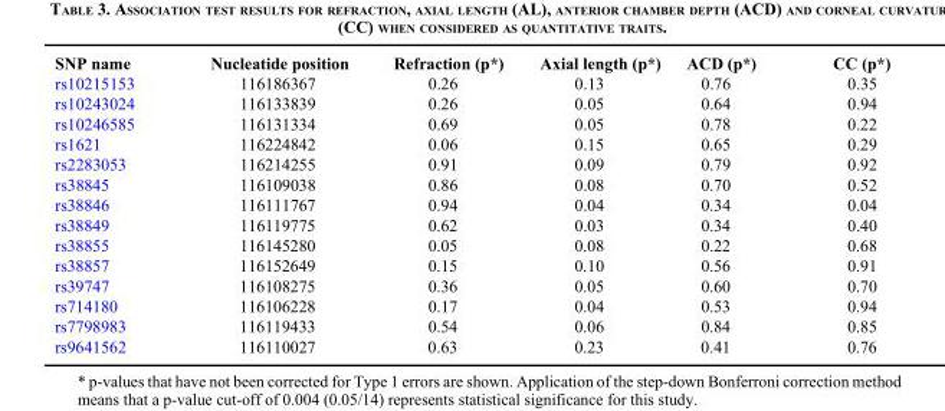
<table><thead><tr><td>SNP name</td><td>Nucleatide position</td><td>Refraction (p*)</td><td>Axial length (p*)</td><td>ACD (p*)</td><td>CC (p*)</td></tr></thead><tbody><tr><td>rs10215153</td><td>116186367</td><td>0.26</td><td>0.13</td><td>0.76</td><td>0.35</td></tr><tr><td>rs10243024</td><td>116133839</td><td>0.26</td><td>0.05</td><td>0.64</td><td>0.94</td></tr><tr><td>rs10246585</td><td>116131334</td><td>0.69</td><td>0.05</td><td>0.78</td><td>0.22</td></tr><tr><td>rs1621</td><td>116224842</td><td>0.06</td><td>0.15</td><td>0.65</td><td>0.29</td></tr><tr><td>rs2283053</td><td>116214255</td><td>0.91</td><td>0.09</td><td>0.79</td><td>0.92</td></tr><tr><td>rs38845</td><td>116109038</td><td>0.86</td><td>0.08</td><td>0.70</td><td>0.52</td></tr><tr><td>rs38846</td><td>116111767</td><td>0.94</td><td>0.04</td><td>0.34</td><td>0.04</td></tr><tr><td>rs38849</td><td>116119775</td><td>0.62</td><td>0.03</td><td>0.34</td><td>0.40</td></tr><tr><td>rs38855</td><td>116145280</td><td>0.05</td><td>0.08</td><td>0.22</td><td>0.68</td></tr><tr><td>rs38857</td><td>116152649</td><td>0.15</td><td>0.10</td><td>0.56</td><td>0.91</td></tr><tr><td>rs39747</td><td>116108275</td><td>0.36</td><td>0.05</td><td>0.60</td><td>0.70</td></tr><tr><td>rs714180</td><td>116106228</td><td>0.17</td><td>0.04</td><td>0.53</td><td>0.94</td></tr><tr><td>rs7798983</td><td>116119433</td><td>0.54</td><td>0.06</td><td>0.84</td><td>0.85</td></tr><tr><td>rs9641562</td><td>116110027</td><td>0.63</td><td>0.23</td><td>0.41</td><td>0.76</td></tr></tbody></table>